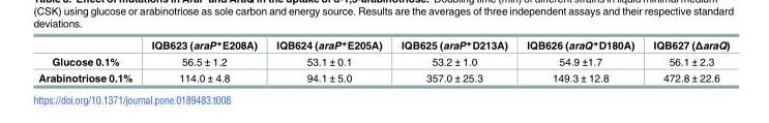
<table><thead><tr><td></td><td>IQB623 (araP*E208A)</td><td>IQB624 (araP*E205A)</td><td>IQB625 (araP*D213A)</td><td>IQB626 (araQ*D180A)</td><td>IQB627 (ΔaraQ)</td></tr></thead><tbody><tr><td>Glucose 0.1%</td><td>56.5 ± 1.2</td><td>53.1 ± 0.1</td><td>53.2 ± 1.0</td><td>54.9 ±1.7</td><td>56.1 ± 2.3</td></tr><tr><td>Arabinotriose 0.1%</td><td>114.0 ± 4.8</td><td>94.1 ± 5.0</td><td>357.0 ± 25.3</td><td>149.3 ± 12.8</td><td>472.8 ± 22.6</td></tr></tbody></table>